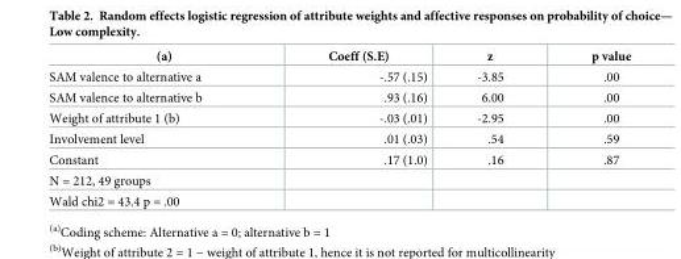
<table><thead><tr><td>(a)</td><td>Coeff (S.E)</td><td>z</td><td>p value</td></tr></thead><tbody><tr><td>SAM valence to alternative a</td><td>-.57 (.15)</td><td>-3.85</td><td>.00</td></tr><tr><td>SAM valence to alternative b</td><td>.93 (.16)</td><td>6.00</td><td>.00</td></tr><tr><td>Weight of attribute 1 (b)</td><td>-.03 (.01)</td><td>-2.95</td><td>.00</td></tr><tr><td>Involvement level</td><td>.01 (.03)</td><td>.54</td><td>.59</td></tr><tr><td>Constant</td><td>.17 (1.0)</td><td>.16</td><td>.87</td></tr><tr><td colspan="4">N = 212, 49 groups</td></tr><tr><td>Wald chi2 = 43.4 p = .00</td><td></td><td></td><td></td></tr></tbody></table>